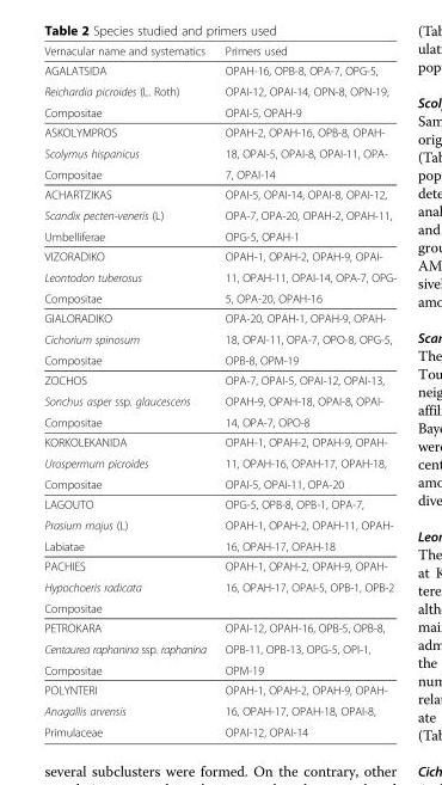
<table><thead><tr><td>Vernacular name and systematics</td><td>Primers used</td></tr></thead><tbody><tr><td>ΑGALATSIDA</td><td>OPAH-16, OPB-8, OPA-7, OPG-5,</td></tr><tr><td>Reichardia picroides (L. Roth)</td><td>OPAI-12, OPAI-14, OPN-8, OPN-19,</td></tr><tr><td>Compositae</td><td>OPAI-5, OPAH-9</td></tr><tr><td>ASKOLYMPROS</td><td>OPAH-2, OPAH-16, OPB-8, OPAH-</td></tr><tr><td>Scolymus hispanicus</td><td>18, OPAI-5, OPAI-8, OPAI-11, OPA-</td></tr><tr><td>Compositae</td><td>7, OPAI-14</td></tr><tr><td>ACHARTZIKAS</td><td>OPAI-5, OPAI-14, OPAI-8, OPAI-12,</td></tr><tr><td>Scandix pecten-veneris (L)</td><td>OPA-7, OPA-20, OPAH-2, OPAH-11,</td></tr><tr><td>Umbelliferae</td><td>OPG-5, OPAH-1</td></tr><tr><td>VIZORADIKO</td><td>OPAH-1, OPAH-2, OPAH-9, OPAI-</td></tr><tr><td>Leontodon tuberosus</td><td>11, OPAH-11, OPAI-14, OPA-7, OPG-</td></tr><tr><td>Compositae</td><td>5, OPA-20, OPAH-16</td></tr><tr><td>GIALORADIKO</td><td>OPA-20, OPAH-1, OPAH-9, OPAH-</td></tr><tr><td>Cichorium spinosum</td><td>18, OPAI-11, OPA-7, OPO-8, OPG-5,</td></tr><tr><td>Compositae</td><td>OPB-8, OPM-19</td></tr><tr><td>ZOCHOS</td><td>OPA-7, OPAI-5, OPAI-12, OPAI-13,</td></tr><tr><td>Sonchus asper ssp. glaucescens</td><td>OPAH-9, OPAH-18, OPAI-8, OPAI-</td></tr><tr><td>Compositae</td><td>14, OPA-7, OPO-8</td></tr><tr><td>KORKOLEKANIDA</td><td>OPAH-1, OPAH-2, OPAH-9, OPAH-</td></tr><tr><td>Urospermum picroides</td><td>11, OPAH-16, OPAH-17, OPAH-18,</td></tr><tr><td>Compositae</td><td>OPAI-5, OPAI-11, OPA-20</td></tr><tr><td>LAGOUTO</td><td>OPG-5, OPB-8, OPB-1, OPA-7,</td></tr><tr><td>Prasium majus (L)</td><td>OPAH-1, OPAH-2, OPAH-11, OPAH-</td></tr><tr><td>Labiatae</td><td>16, OPAH-17, OPAH-18</td></tr><tr><td>PACHIES</td><td>OPAH-1, OPAH-2, OPAH-9, OPAH-</td></tr><tr><td>Hypochoeris radicata</td><td>16, OPAH-17, OPAI-5, OPB-1, OPB-2</td></tr><tr><td colspan="2">Compositae</td></tr><tr><td>PETROKARA</td><td>OPAI-12, OPAH-16, OPB-5, OPB-8,</td></tr><tr><td>Centaurea raphanina ssp. raphanina</td><td>OPB-11, OPB-13, OPG-5, OPI-1,</td></tr><tr><td>Compositae</td><td>OPM-19</td></tr><tr><td>POLYNTERI</td><td>OPAH-1, OPAH-2, OPAH-9, OPAH-</td></tr><tr><td>Anagallis arvensis</td><td>16, OPAH-17, OPAH-18, OPAI-8,</td></tr><tr><td>Primulaceae</td><td>OPAI-12, OPAI-14</td></tr></tbody></table>